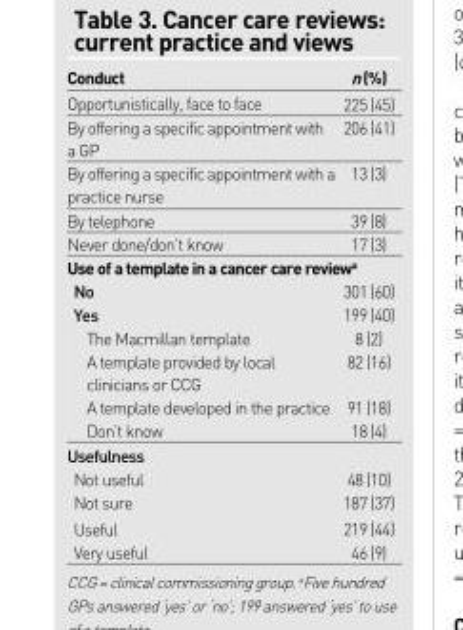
<table><thead><tr><td>Conduct</td><td>n (%)</td></tr></thead><tbody><tr><td>Opportunistically, face to face</td><td>225 (45)</td></tr><tr><td>By offering a specific appointment with a GP</td><td>206 (41)</td></tr><tr><td>By offering a specific appointment with a practice nurse</td><td>13 (3)</td></tr><tr><td>By telephone</td><td>39 (8)</td></tr><tr><td>Never done/don’t know</td><td>17 (3)</td></tr><tr><td colspan="2">Use of a template in a cancer care review<sup>a</sup></td></tr><tr><td>No</td><td>301 (60)</td></tr><tr><td>Yes</td><td>199 (40)</td></tr><tr><td>The Macmillan template</td><td>8 (2)</td></tr><tr><td>A template provided by local clinicians or CCG</td><td>82 (16)</td></tr><tr><td>A template developed in the practice</td><td>91 (18)</td></tr><tr><td>Don’t know</td><td>18 (4)</td></tr><tr><td colspan="2">Usefulness</td></tr><tr><td>Not useful</td><td>48 (10)</td></tr><tr><td>Not sure</td><td>187 (37)</td></tr><tr><td>Useful</td><td>219 (44)</td></tr><tr><td>Very useful</td><td>46 (9)</td></tr></tbody></table>